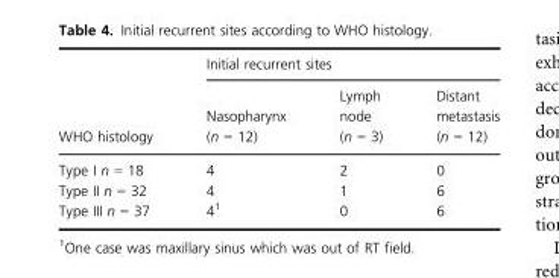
<table><thead><tr><td rowspan="2">WHO histology</td><td colspan="3">Initial recurrent sites</td></tr><tr><td>Nasopharynx (n = 12)</td><td>Lymph node (n = 3)</td><td>Distant metastasis (n = 12)</td></tr></thead><tbody><tr><td>Type I n = 18</td><td>4</td><td>2</td><td>0</td></tr><tr><td>Type II n = 32</td><td>4</td><td>1</td><td>6</td></tr><tr><td>Type III n = 37</td><td>4<sup>1</sup></td><td>0</td><td>6</td></tr></tbody></table>